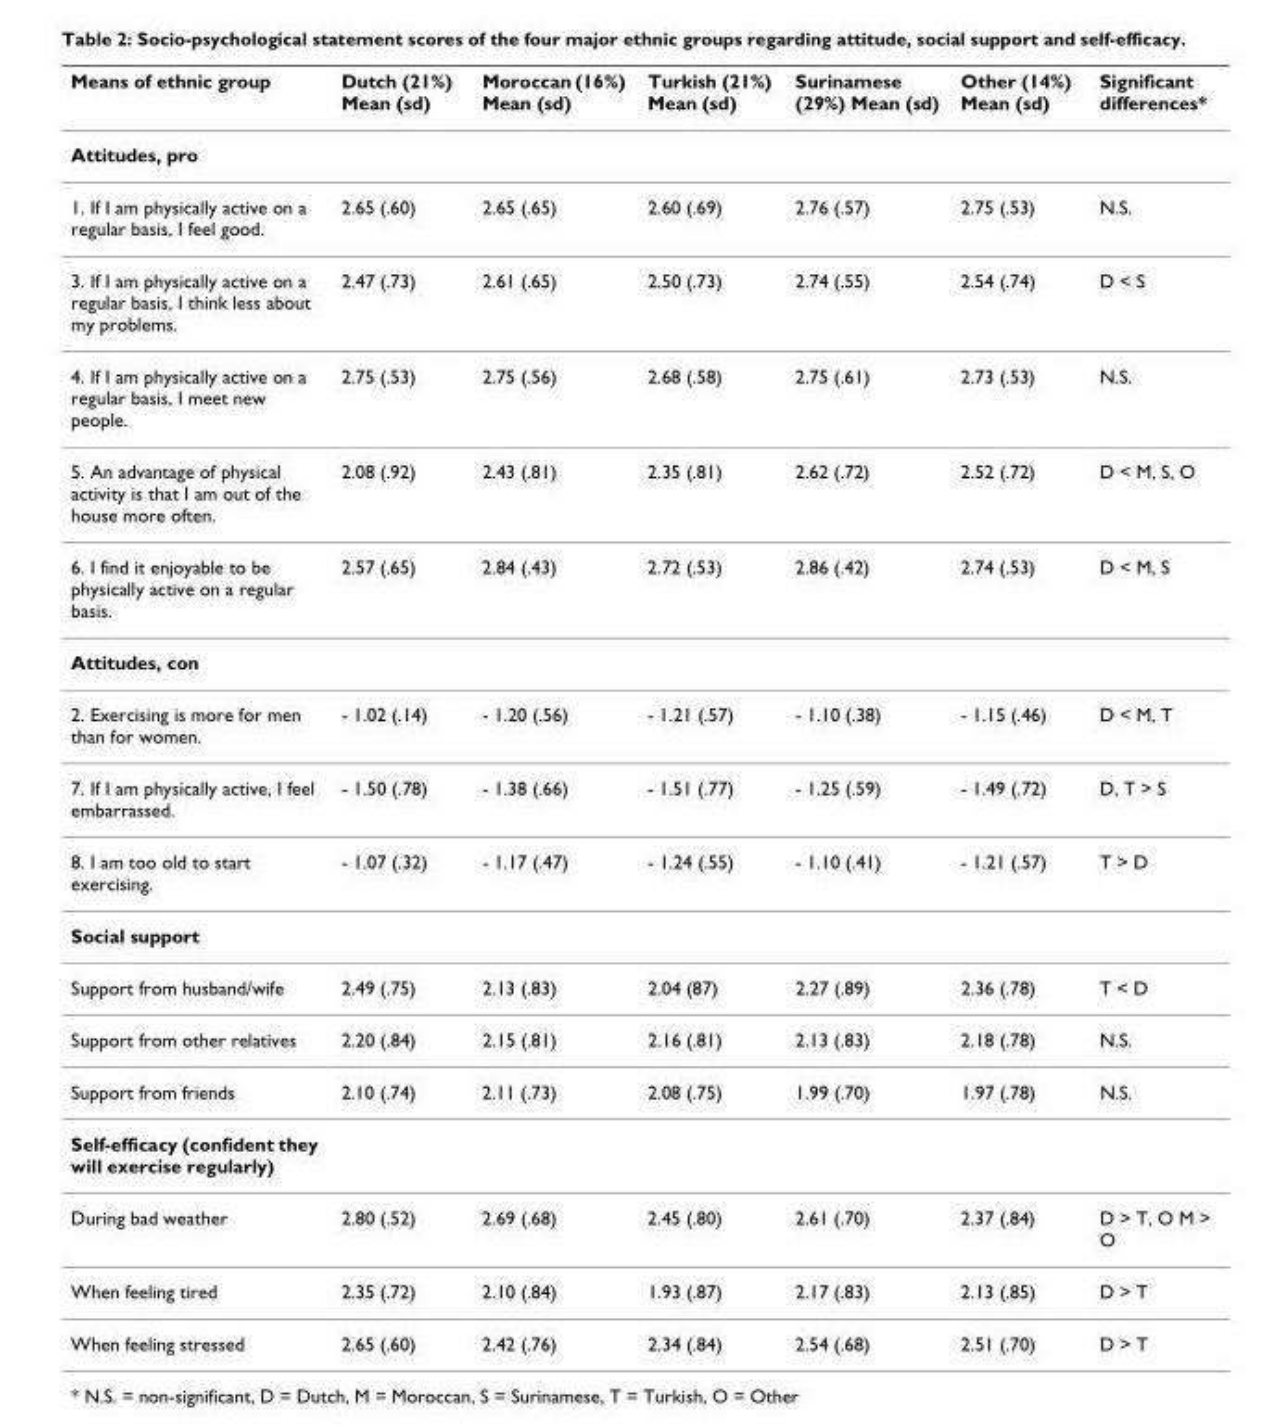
<table><thead><tr><td>Means of ethnic group</td><td>Dutch (21%) Mean (sd)</td><td>Moroccan (16%) Mean (sd)</td><td>Turkish (21%) Mean (sd)</td><td>Surinamese (29%) Mean (sd)</td><td>Other (14%) Mean (sd)</td><td>Significant differences*</td></tr></thead><tbody><tr><td colspan="7">Attitudes, pro</td></tr><tr><td>1. If I am physically active on a regular basis, I feel good.</td><td>2.65 (.60)</td><td>2.65 (.65)</td><td>2.60 (.69)</td><td>2.76 (.57)</td><td>2.75 (.53)</td><td>N.S.</td></tr><tr><td>3. If I am physically active on a regular basis, I think less about my problems.</td><td>2.47 (.73)</td><td>2.61 (.65)</td><td>2.50 (.73)</td><td>2.74 (.55)</td><td>2.54 (.74)</td><td>D &lt; S</td></tr><tr><td>4. If I am physically active on a regular basis, I meet new people.</td><td>2.75 (.53)</td><td>2.75 (.56)</td><td>2.68 (.58)</td><td>2.75 (.61)</td><td>2.73 (.53)</td><td>N.S.</td></tr><tr><td>5. An advantage of physical activity is that I am out of the house more often.</td><td>2.08 (.92)</td><td>2.43 (.81)</td><td>2.35 (.81)</td><td>2.62 (.72)</td><td>2.52 (.72)</td><td>D &lt; M, S, O</td></tr><tr><td>6. I find it enjoyable to be physically active on a regular basis.</td><td>2.57 (.65)</td><td>2.84 (.43)</td><td>2.72 (.53)</td><td>2.86 (.42)</td><td>2.74 (.53)</td><td>D &lt; M, S</td></tr><tr><td colspan="7">Attitudes, con</td></tr><tr><td>2. Exercising is more for men than for women.</td><td>- 1.02 (.14)</td><td>- 1.20 (.56)</td><td>- 1.21 (.57)</td><td>- 1.10 (.38)</td><td>- 1.15 (.46)</td><td>D &lt; M, T</td></tr><tr><td>7. If I am physically active, I feel embarrassed.</td><td>- 1.50 (.78)</td><td>- 1.38 (.66)</td><td>- 1.51 (.77)</td><td>- 1.25 (.59)</td><td>- 1.49 (.72)</td><td>D, T &gt; S</td></tr><tr><td>8. I am too old to start exercising.</td><td>- 1.07 (.32)</td><td>- 1.17 (.47)</td><td>- 1.24 (.55)</td><td>- 1.10 (.41)</td><td>- 1.21 (.57)</td><td>T &gt; D</td></tr><tr><td colspan="7">Social support</td></tr><tr><td>Support from husband/wife</td><td>2.49 (.75)</td><td>2.13 (.83)</td><td>2.04 (87)</td><td>2.27 (.89)</td><td>2.36 (.78)</td><td>T &lt; D</td></tr><tr><td>Support from other relatives</td><td>2.20 (.84)</td><td>2.15 (.81)</td><td>2.16 (.81)</td><td>2.13 (.83)</td><td>2.18 (.78)</td><td>N.S.</td></tr><tr><td>Support from friends</td><td>2.10 (.74)</td><td>2.11 (.73)</td><td>2.08 (.75)</td><td>1.99 (.70)</td><td>1.97 (.78)</td><td>N.S.</td></tr><tr><td colspan="7">Self-efficacy (confident they will exercise regularly)</td></tr><tr><td>During bad weather</td><td>2.80 (.52)</td><td>2.69 (.68)</td><td>2.45 (.80)</td><td>2.61 (.70)</td><td>2.37 (.84)</td><td>D &gt; T, O M &gt; O</td></tr><tr><td>When feeling tired</td><td>2.35 (.72)</td><td>2.10 (.84)</td><td>1.93 (.87)</td><td>2.17 (.83)</td><td>2.13 (.85)</td><td>D &gt; T</td></tr><tr><td>When feeling stressed</td><td>2.65 (.60)</td><td>2.42 (.76)</td><td>2.34 (.84)</td><td>2.54 (.68)</td><td>2.51 (.70)</td><td>D &gt; T</td></tr></tbody></table>